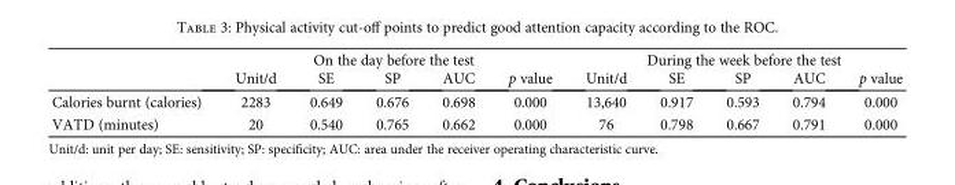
<table><thead><tr><td rowspan="2"></td><td colspan="5">On the day before the test</td><td colspan="5">During the week before the test</td></tr><tr><td>Unit/d</td><td>SE</td><td>SP</td><td>AUC</td><td>p value</td><td>Unit/d</td><td>SE</td><td>SP</td><td>AUC</td><td>p value</td></tr></thead><tbody><tr><td>Calories burnt (calories)</td><td>2283</td><td>0.649</td><td>0.676</td><td>0.698</td><td>0.000</td><td>13,640</td><td>0.917</td><td>0.593</td><td>0.794</td><td>0.000</td></tr><tr><td>VATD (minutes)</td><td>20</td><td>0.540</td><td>0.765</td><td>0.662</td><td>0.000</td><td>76</td><td>0.798</td><td>0.667</td><td>0.791</td><td>0.000</td></tr></tbody></table>